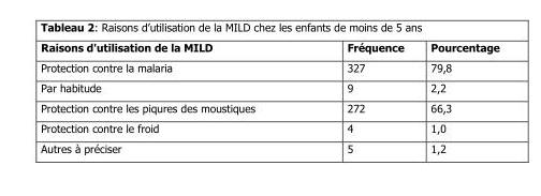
<table><thead><tr><td>Raisons d&#x27;utilisation de la MILD</td><td>Fréquence</td><td>Pourcentage</td></tr></thead><tbody><tr><td>Protection contre la malaria</td><td>327</td><td>79,8</td></tr><tr><td>Par habitude</td><td>9</td><td>2,2</td></tr><tr><td>Protection contre les piqures des moustiques</td><td>272</td><td>66,3</td></tr><tr><td>Protection contre le froid</td><td>4</td><td>1,0</td></tr><tr><td>Autres à préciser</td><td>5</td><td>1,2</td></tr></tbody></table>